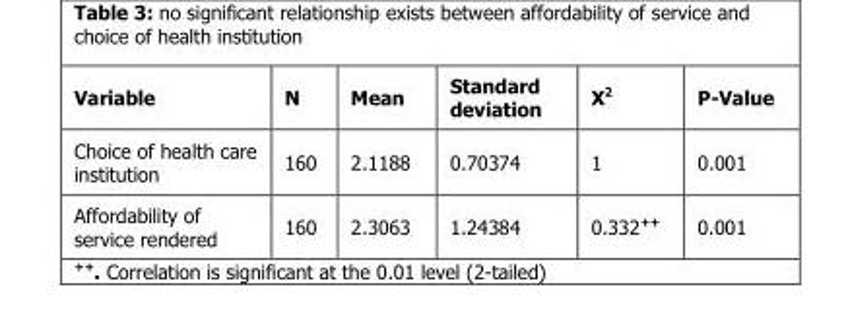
<table><thead><tr><td>Variable</td><td>N</td><td>Mean</td><td>Standard deviation</td><td>X<sup>2</sup></td><td>P-Value</td></tr></thead><tbody><tr><td>Choice of health care institution</td><td>160</td><td>2.1188</td><td>0.70374</td><td>1</td><td>0.001</td></tr><tr><td>Affordability of service rendered</td><td>160</td><td>2.3063</td><td>1.24384</td><td>0.332<sup>++</sup></td><td>0.001</td></tr></tbody></table>